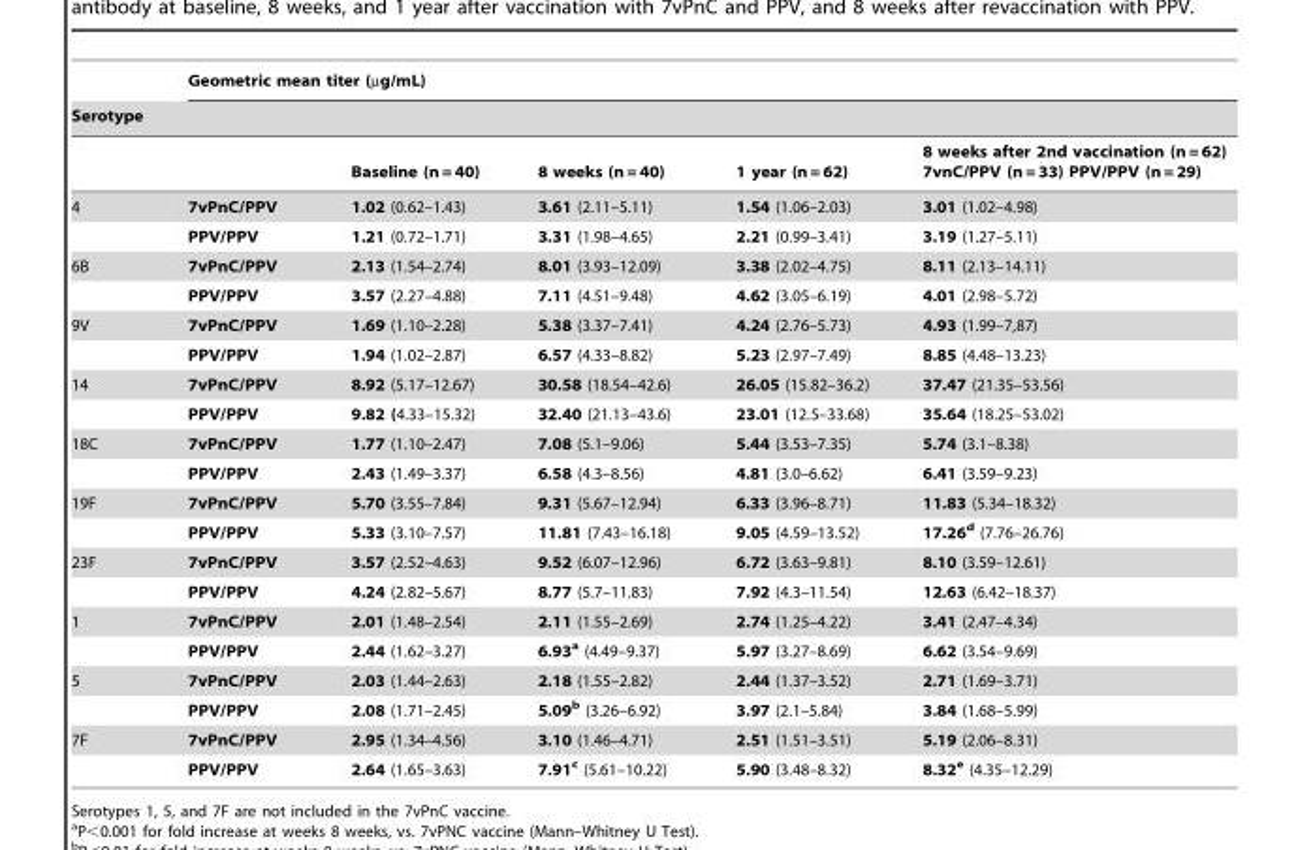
<table><thead><tr><td></td><td colspan="5">Geometric mean titer (µg/mL)</td></tr><tr><td colspan="6">Serotype</td></tr><tr><td></td><td></td><td>Baseline (n = 40)</td><td>8 weeks (n = 40)</td><td>1 year (n = 62)</td><td>8 weeks after 2nd vaccination (n = 62) 7vnC/PPV (n = 33) PPV/PPV (n = 29)</td></tr></thead><tbody><tr><td rowspan="2">4</td><td>7vPnC/PPV</td><td>1.02 (0.62–1.43)</td><td>3.61 (2.11–5.11)</td><td>1.54 (1.06–2.03)</td><td>3.01 (1.02–4.98)</td></tr><tr><td>PPV/PPV</td><td>1.21 (0.72–1.71)</td><td>3.31 (1.98–4.65)</td><td>2.21 (0.99–3.41)</td><td>3.19 (1.27–5.11)</td></tr><tr><td rowspan="2">6B</td><td>7vPnC/PPV</td><td>2.13 (1.54–2.74)</td><td>8.01 (3.93–12.09)</td><td>3.38 (2.02–4.75)</td><td>8.11 (2.13–14.11)</td></tr><tr><td>PPV/PPV</td><td>3.57 (2.27–4.88)</td><td>7.11 (4.51–9.48)</td><td>4.62 (3.05–6.19)</td><td>4.01 (2.98–5.72)</td></tr><tr><td rowspan="2">9V</td><td>7vPnC/PPV</td><td>1.69 (1.10–2.28)</td><td>5.38 (3.37–7.41)</td><td>4.24 (2.76–5.73)</td><td>4.93 (1.99–7,87)</td></tr><tr><td>PPV/PPV</td><td>1.94 (1.02–2.87)</td><td>6.57 (4.33–8.82)</td><td>5.23 (2.97–7.49)</td><td>8.85 (4.48–13.23)</td></tr><tr><td rowspan="2">14</td><td>7vPnC/PPV</td><td>8.92 (5.17–12.67)</td><td>30.58 (18.54–42.6)</td><td>26.05 (15.82–36.2)</td><td>37.47 (21.35–53.56)</td></tr><tr><td>PPV/PPV</td><td>9.82 (4.33–15.32)</td><td>32.40 (21.13–43.6)</td><td>23.01 (12.5–33.68)</td><td>35.64 (18.25–53.02)</td></tr><tr><td rowspan="2">18C</td><td>7vPnC/PPV</td><td>1.77 (1.10–2.47)</td><td>7.08 (5.1–9.06)</td><td>5.44 (3.53–7.35)</td><td>5.74 (3.1–8.38)</td></tr><tr><td>PPV/PPV</td><td>2.43 (1.49–3.37)</td><td>6.58 (4.3–8.56)</td><td>4.81 (3.0–6.62)</td><td>6.41 (3.59–9.23)</td></tr><tr><td rowspan="2">19F</td><td>7vPnC/PPV</td><td>5.70 (3.55–7.84)</td><td>9.31 (5.67–12.94)</td><td>6.33 (3.96–8.71)</td><td>11.83 (5.34–18.32)</td></tr><tr><td>PPV/PPV</td><td>5.33 (3.10–7.57)</td><td>11.81 (7.43–16.18)</td><td>9.05 (4.59–13.52)</td><td>17.26d (7.76–26.76)</td></tr><tr><td rowspan="2">23F</td><td>7vPnC/PPV</td><td>3.57 (2.52–4.63)</td><td>9.52 (6.07–12.96)</td><td>6.72 (3.63–9.81)</td><td>8.10 (3.59–12.61)</td></tr><tr><td>PPV/PPV</td><td>4.24 (2.82–5.67)</td><td>8.77 (5.7–11.83)</td><td>7.92 (4.3–11.54)</td><td>12.63 (6.42–18.37)</td></tr><tr><td rowspan="2">1</td><td>7vPnC/PPV</td><td>2.01 (1.48–2.54)</td><td>2.11 (1.55–2.69)</td><td>2.74 (1.25–4.22)</td><td>3.41 (2.47–4.34)</td></tr><tr><td>PPV/PPV</td><td>2.44 (1.62–3.27)</td><td>6.93a (4.49–9.37)</td><td>5.97 (3.27–8.69)</td><td>6.62 (3.54–9.69)</td></tr><tr><td rowspan="2">5</td><td>7vPnC/PPV</td><td>2.03 (1.44–2.63)</td><td>2.18 (1.55–2.82)</td><td>2.44 (1.37–3.52)</td><td>2.71 (1.69–3.71)</td></tr><tr><td>PPV/PPV</td><td>2.08 (1.71–2.45)</td><td>5.09b (3.26–6.92)</td><td>3.97 (2.1–5.84)</td><td>3.84 (1.68–5.99)</td></tr><tr><td rowspan="2">7F</td><td>7vPnC/PPV</td><td>2.95 (1.34–4.56)</td><td>3.10 (1.46–4.71)</td><td>2.51 (1.51–3.51)</td><td>5.19 (2.06–8.31)</td></tr><tr><td>PPV/PPV</td><td>2.64 (1.65–3.63)</td><td>7.91c (5.61–10.22)</td><td>5.90 (3.48–8.32)</td><td>8.32e (4.35–12.29)</td></tr></tbody></table>